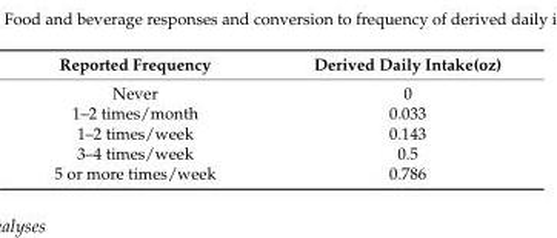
<table><thead><tr><td>Reported Frequency</td><td>Derived Daily Intake(oz)</td></tr></thead><tbody><tr><td>Never</td><td>0</td></tr><tr><td>1–2 times/month</td><td>0.033</td></tr><tr><td>1–2 times/week</td><td>0.143</td></tr><tr><td>3–4 times/week</td><td>0.5</td></tr><tr><td>5 or more times/week</td><td>0.786</td></tr></tbody></table>